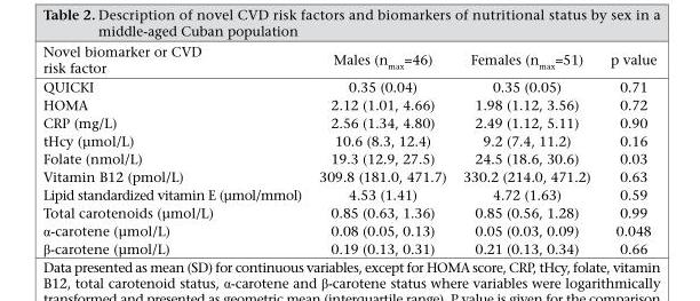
<table><thead><tr><td>Novel biomarker or CVD risk factor</td><td>Males (n<sub>max</sub>=46)</td><td>Females (n<sub>max</sub>=51)</td><td>p value</td></tr></thead><tbody><tr><td>QUICKI</td><td>0.35 (0.04)</td><td>0.35 (0.05)</td><td>0.71</td></tr><tr><td>HOMA</td><td>2.12 (1.01, 4.66)</td><td>1.98 (1.12, 3.56)</td><td>0.72</td></tr><tr><td>CRP (mg/L)</td><td>2.56 (1.34, 4.80)</td><td>2.49 (1.12, 5.11)</td><td>0.90</td></tr><tr><td>tHcy (µmol/L)</td><td>10.6 (8.3, 12.4)</td><td>9.2 (7.4, 11.2)</td><td>0.16</td></tr><tr><td>Folate (nmol/L)</td><td>19.3 (12.9, 27.5)</td><td>24.5 (18.6, 30.6)</td><td>0.03</td></tr><tr><td>Vitamin B12 (pmol/L)</td><td>309.8 (181.0, 471.7)</td><td>330.2 (214.0, 471.2)</td><td>0.63</td></tr><tr><td>Lipid standardized vitamin E (µmol/mmol)</td><td>4.53 (1.41)</td><td>4.72 (1.63)</td><td>0.59</td></tr><tr><td>Total carotenoids (µmol/L)</td><td>0.85 (0.63, 1.36)</td><td>0.85 (0.56, 1.28)</td><td>0.99</td></tr><tr><td>α-carotene (µmol/L)</td><td>0.08 (0.05, 0.13)</td><td>0.05 (0.03, 0.09)</td><td>0.048</td></tr><tr><td>β-carotene (µmol/L)</td><td>0.19 (0.13, 0.31)</td><td>0.21 (0.13, 0.34)</td><td>0.66</td></tr></tbody></table>